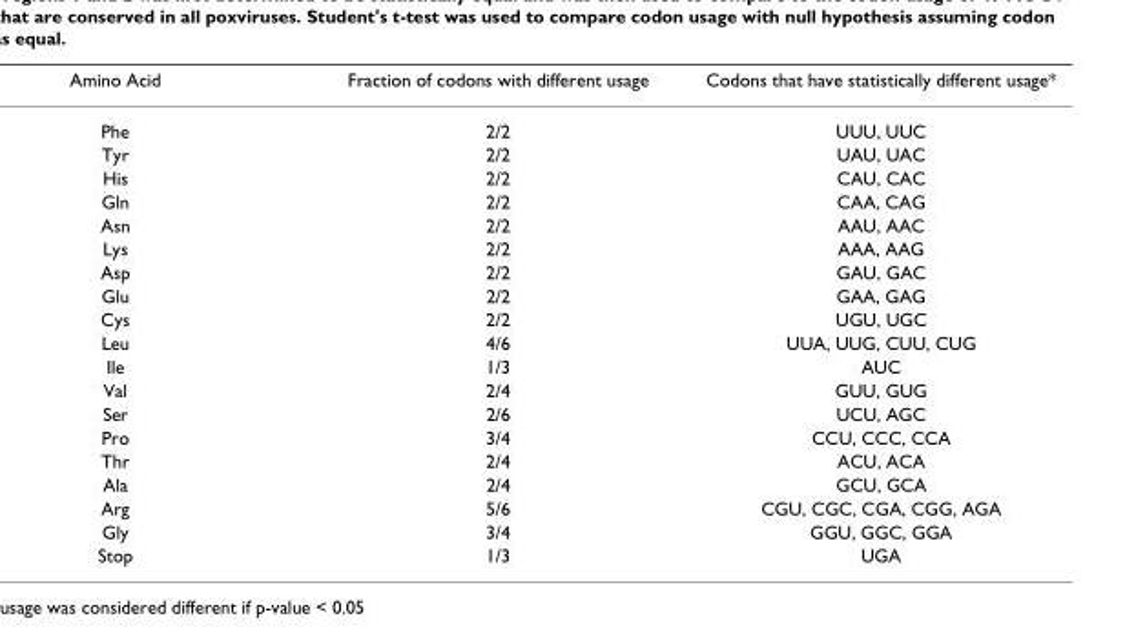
<table><thead><tr><td>Amino Acid</td><td>Fraction of codons with different usage</td><td>Codons that have statistically different usage*</td></tr></thead><tbody><tr><td>Phe</td><td>2/2</td><td>UUU, UUC</td></tr><tr><td>Tyr</td><td>2/2</td><td>UAU, UAC</td></tr><tr><td>His</td><td>2/2</td><td>CAU, CAC</td></tr><tr><td>Gln</td><td>2/2</td><td>CAA, CAG</td></tr><tr><td>Asn</td><td>2/2</td><td>AAU, AAC</td></tr><tr><td>Lys</td><td>2/2</td><td>AAA, AAG</td></tr><tr><td>Asp</td><td>2/2</td><td>GAU, GAC</td></tr><tr><td>Glu</td><td>2/2</td><td>GAA, GAG</td></tr><tr><td>Cys</td><td>2/2</td><td>UGU, UGC</td></tr><tr><td>Leu</td><td>4/6</td><td>UUA, UUG, CUU, CUG</td></tr><tr><td>Ile</td><td>1/3</td><td>AUC</td></tr><tr><td>Val</td><td>2/4</td><td>GUU, GUG</td></tr><tr><td>Ser</td><td>2/6</td><td>UCU, AGC</td></tr><tr><td>Pro</td><td>3/4</td><td>CCU, CCC, CCA</td></tr><tr><td>Thr</td><td>2/4</td><td>ACU, ACA</td></tr><tr><td>Ala</td><td>2/4</td><td>GCU, GCA</td></tr><tr><td>Arg</td><td>5/6</td><td>CGU, CGC, CGA, CGG, AGA</td></tr><tr><td>Gly</td><td>3/4</td><td>GGU, GGC, GGA</td></tr><tr><td>Stop</td><td>1/3</td><td>UGA</td></tr></tbody></table>